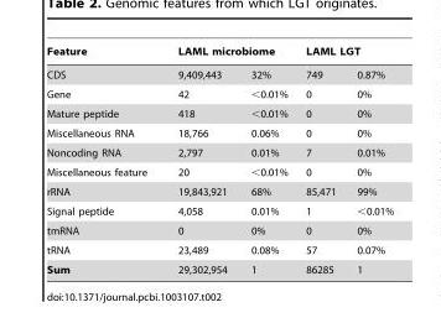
<table><thead><tr><td rowspan="2">Feature CDS</td><td colspan="2">LAML microbiome</td><td colspan="2">LAML LGT</td></tr><tr><td>9,409,443</td><td>32%</td><td>749</td><td>0.87%</td></tr></thead><tbody><tr><td>Gene</td><td>42</td><td>&lt;0.01%</td><td>0</td><td>0%</td></tr><tr><td>Mature peptide</td><td>418</td><td>&lt;0.01%</td><td>0</td><td>0%</td></tr><tr><td>Miscellaneous RNA</td><td>18,766</td><td>0.06%</td><td>0</td><td>0%</td></tr><tr><td>Noncoding RNA</td><td>2,797</td><td>0.01%</td><td>7</td><td>0.01%</td></tr><tr><td>Miscellaneous feature</td><td>20</td><td>&lt;0.01%</td><td>0</td><td>0%</td></tr><tr><td>rRNA</td><td>19,843,921</td><td>68%</td><td>85,471</td><td>99%</td></tr><tr><td>Signal peptide</td><td>4,058</td><td>0.01%</td><td>1</td><td>&lt;0.01%</td></tr><tr><td>tmRNA</td><td>0</td><td>0%</td><td>0</td><td>0%</td></tr><tr><td>tRNA</td><td>23,489</td><td>0.08%</td><td>57</td><td>0.07%</td></tr><tr><td>Sum</td><td>29,302,954</td><td>1</td><td>86285</td><td>1</td></tr></tbody></table>